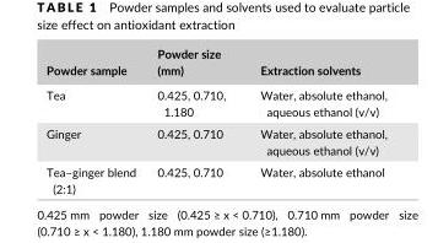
<table><thead><tr><td>Powder sample</td><td>Powder size (mm)</td><td>Extraction solvents</td></tr></thead><tbody><tr><td>Tea</td><td>0.425, 0.710, 1.180</td><td>Water, absolute ethanol, aqueous ethanol (v/v)</td></tr><tr><td>Ginger</td><td>0.425, 0.710</td><td>Water, absolute ethanol, aqueous ethanol (v/v)</td></tr><tr><td>Tea–ginger blend (2:1)</td><td>0.425, 0.710</td><td>Water, absolute ethanol</td></tr></tbody></table>